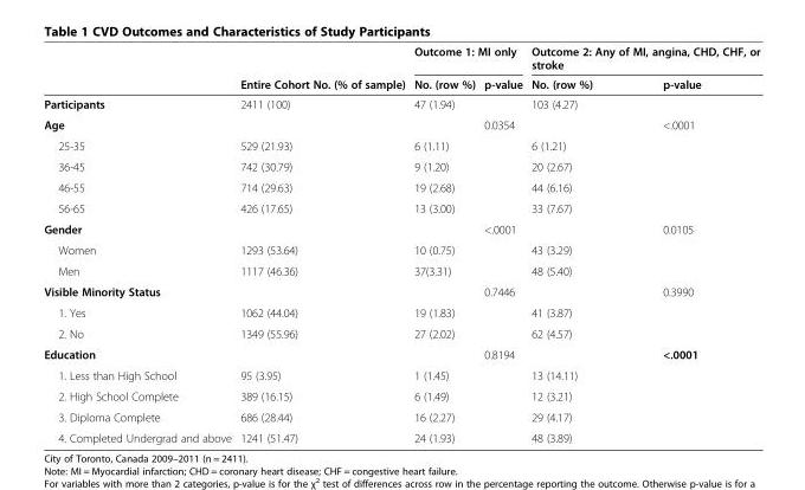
<table><thead><tr><td rowspan="2"></td><td rowspan="2">Entire Cohort No. (% of sample)</td><td colspan="2">Outcome 1: MI only</td><td colspan="2">Outcome 2: Any of MI, angina, CHD, CHF, or stroke</td></tr><tr><td>No. (row %)</td><td>p-value</td><td>No. (row %)</td><td>p-value</td></tr></thead><tbody><tr><td>Participants</td><td>2411 (100)</td><td>47 (1.94)</td><td></td><td>103 (4.27)</td><td></td></tr><tr><td>Age</td><td></td><td></td><td>0.0354</td><td></td><td>&lt;.0001</td></tr><tr><td>25-35</td><td>529 (21.93)</td><td>6 (1.11)</td><td></td><td>6 (1.21)</td><td></td></tr><tr><td>36-45</td><td>742 (30.79)</td><td>9 (1.20)</td><td></td><td>20 (2.67)</td><td></td></tr><tr><td>46-55</td><td>714 (29.63)</td><td>19 (2.68)</td><td></td><td>44 (6.16)</td><td></td></tr><tr><td>56-65</td><td>426 (17.65)</td><td>13 (3.00)</td><td></td><td>33 (7.67)</td><td></td></tr><tr><td>Gender</td><td></td><td></td><td>&lt;.0001</td><td></td><td>0.0105</td></tr><tr><td>Women</td><td>1293 (53.64)</td><td>10 (0.75)</td><td></td><td>43 (3.29)</td><td></td></tr><tr><td>Men</td><td>1117 (46.36)</td><td>37(3.31)</td><td></td><td>48 (5.40)</td><td></td></tr><tr><td>Visible Minority Status</td><td></td><td></td><td>0.7446</td><td></td><td>0.3990</td></tr><tr><td>1. Yes</td><td>1062 (44.04)</td><td>19 (1.83)</td><td></td><td>41 (3.87)</td><td></td></tr><tr><td>2. No</td><td>1349 (55.96)</td><td>27 (2.02)</td><td></td><td>62 (4.57)</td><td></td></tr><tr><td>Education</td><td></td><td></td><td>0.8194</td><td></td><td>&lt;.0001</td></tr><tr><td>1. Less than High School</td><td>95 (3.95)</td><td>1 (1.45)</td><td></td><td>13 (14.11)</td><td></td></tr><tr><td>2. High School Complete</td><td>389 (16.15)</td><td>6 (1.49)</td><td></td><td>12 (3.21)</td><td></td></tr><tr><td>3. Diploma Complete</td><td>686 (28.44)</td><td>16 (2.27)</td><td></td><td>29 (4.17)</td><td></td></tr><tr><td>4. Completed Undergrad and above</td><td>1241 (51.47)</td><td>24 (1.93)</td><td></td><td>48 (3.89)</td><td></td></tr></tbody></table>